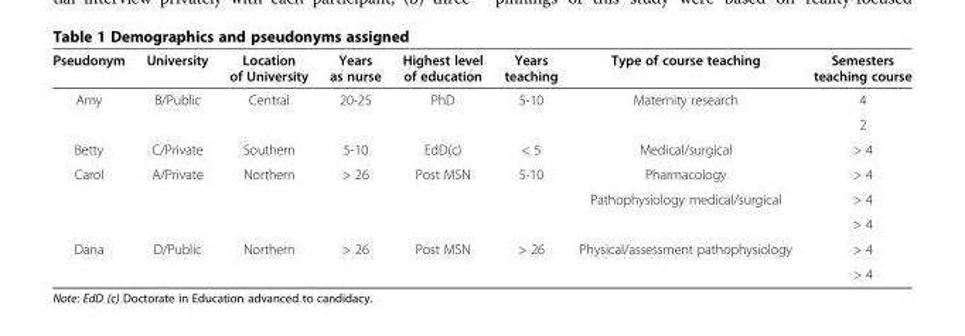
<table><thead><tr><td>Pseudonym</td><td>University</td><td>Location of University</td><td>Years as nurse</td><td>Highest level of education</td><td>Years teaching</td><td>Type of course teaching</td><td>Semesters teaching course</td></tr></thead><tbody><tr><td rowspan="2">Amy</td><td rowspan="2">B/Public</td><td rowspan="2">Central</td><td rowspan="2">20-25</td><td rowspan="2">PhD</td><td rowspan="2">5-10</td><td rowspan="2">Maternity research</td><td>4</td></tr><tr><td>2</td></tr><tr><td>Betty</td><td>C/Private</td><td>Southern</td><td>5-10</td><td>EdD(c)</td><td>&lt; 5</td><td>Medical/surgical</td><td>&gt; 4</td></tr><tr><td rowspan="3">Carol</td><td rowspan="3">A/Private</td><td rowspan="3">Northern</td><td rowspan="3">&gt; 26</td><td rowspan="3">Post MSN</td><td rowspan="3">5-10</td><td>Pharmacology</td><td>&gt; 4</td></tr><tr><td rowspan="2">Pathophysiology medical/surgical</td><td>&gt; 4</td></tr><tr><td>&gt; 4</td></tr><tr><td rowspan="2">Dana</td><td rowspan="2">D/Public</td><td rowspan="2">Northern</td><td rowspan="2">&gt; 26</td><td rowspan="2">Post MSN</td><td rowspan="2">&gt; 26</td><td rowspan="2">Physical/assessment pathophysiology</td><td>&gt; 4</td></tr><tr><td>&gt; 4</td></tr></tbody></table>